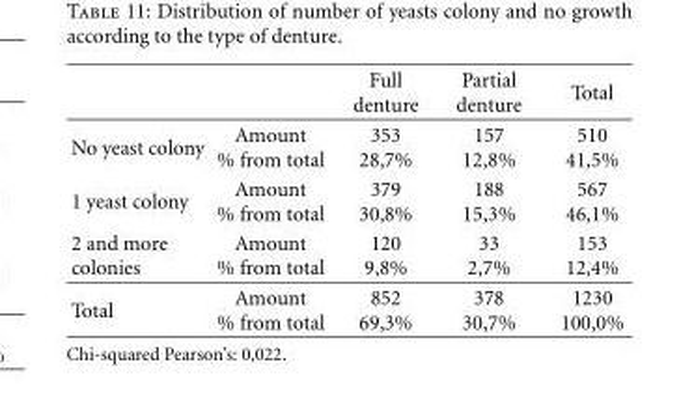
<table><thead><tr><td></td><td></td><td>Full denture</td><td>Partial denture</td><td>Total</td></tr></thead><tbody><tr><td>No yeast colony</td><td>Amount % from total</td><td>353 28,7%</td><td>157 12,8%</td><td>510 41,5%</td></tr><tr><td>1 yeast colony</td><td>Amount % from total</td><td>379 30,8%</td><td>188 15,3%</td><td>567 46,1%</td></tr><tr><td>2 and more colonies</td><td>Amount % from total</td><td>120 9,8%</td><td>33 2,7%</td><td>153 12,4%</td></tr><tr><td>Total</td><td>Amount % from total</td><td>852 69,3%</td><td>378 30,7%</td><td>1230 100,0%</td></tr></tbody></table>